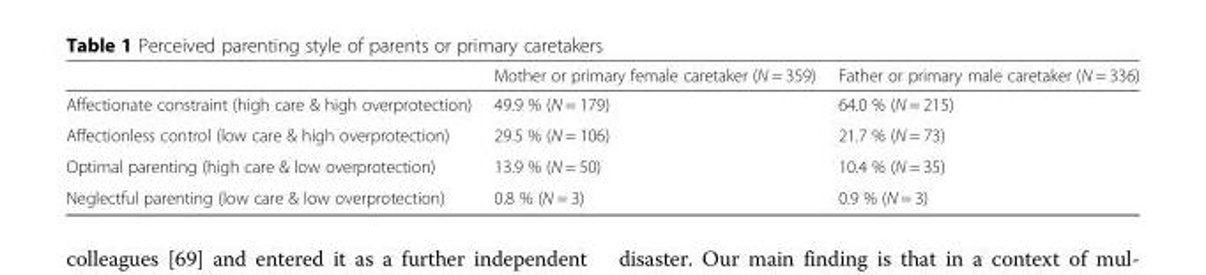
<table><thead><tr><td></td><td>Mother or primary female caretaker (N = 359)</td><td>Father or primary male caretaker (N = 336)</td></tr></thead><tbody><tr><td>Affectionate constraint (high care &amp; high overprotection)</td><td>49.9 % (N = 179)</td><td>64.0 % (N = 215)</td></tr><tr><td>Affectionless control (low care &amp; high overprotection)</td><td>29.5 % (N = 106)</td><td>21.7 % (N = 73)</td></tr><tr><td>Optimal parenting (high care &amp; low overprotection)</td><td>13.9 % (N = 50)</td><td>10.4 % (N = 35)</td></tr><tr><td>Neglectful parenting (low care &amp; low overprotection)</td><td>0.8 % (N = 3)</td><td>0.9 % (N = 3)</td></tr></tbody></table>